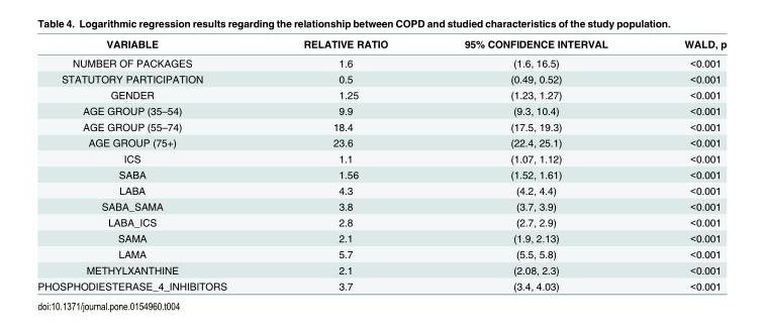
<table><thead><tr><td>VARIABLE</td><td>RELATIVE RATIO</td><td>95% CONFIDENCE INTERVAL</td><td>WALD, p</td></tr></thead><tbody><tr><td>NUMBER OF PACKAGES</td><td>1.6</td><td>(1.6, 16.5)</td><td>&lt;0.001</td></tr><tr><td>STATUTORY PARTICIPATION</td><td>0.5</td><td>(0.49, 0.52)</td><td>&lt;0.001</td></tr><tr><td>GENDER</td><td>1.25</td><td>(1.23, 1.27)</td><td>&lt;0.001</td></tr><tr><td>AGE GROUP (35–54)</td><td>9.9</td><td>(9.3, 10.4)</td><td>&lt;0.001</td></tr><tr><td>AGE GROUP (55–74)</td><td>18.4</td><td>(17.5, 19.3)</td><td>&lt;0.001</td></tr><tr><td>AGE GROUP (75+)</td><td>23.6</td><td>(22.4, 25.1)</td><td>&lt;0.001</td></tr><tr><td>ICS</td><td>1.1</td><td>(1.07, 1.12)</td><td>&lt;0.001</td></tr><tr><td>SABA</td><td>1.56</td><td>(1.52, 1.61)</td><td>&lt;0.001</td></tr><tr><td>LABA</td><td>4.3</td><td>(4.2, 4.4)</td><td>&lt;0.001</td></tr><tr><td>SABA_SAMA</td><td>3.8</td><td>(3.7, 3.9)</td><td>&lt;0.001</td></tr><tr><td>LABA_ICS</td><td>2.8</td><td>(2.7, 2.9)</td><td>&lt;0.001</td></tr><tr><td>SAMA</td><td>2.1</td><td>(1.9, 2.13)</td><td>&lt;0.001</td></tr><tr><td>LAMA</td><td>5.7</td><td>(5.5, 5.8)</td><td>&lt;0.001</td></tr><tr><td>METHYLXANTHINE</td><td>2.1</td><td>(2.08, 2.3)</td><td>&lt;0.001</td></tr><tr><td>PHOSPHODIESTERASE_4_INHIBITORS</td><td>3.7</td><td>(3.4, 4.03)</td><td>&lt;0.001</td></tr></tbody></table>